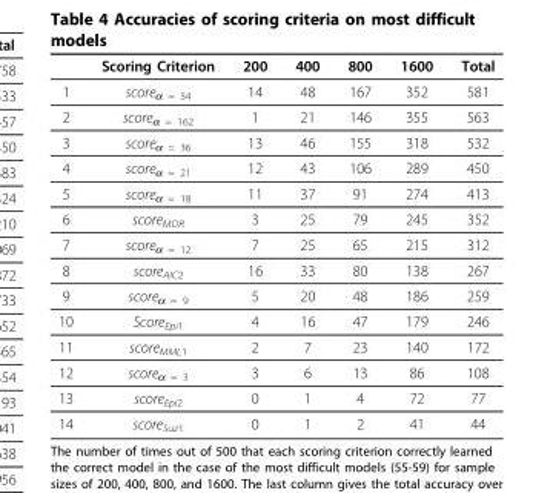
<table><thead><tr><td></td><td>Scoring Criterion</td><td>200</td><td>400</td><td>800</td><td>1600</td><td>Total</td></tr></thead><tbody><tr><td>1</td><td>score<sub>α = 54</sub></td><td>14</td><td>48</td><td>167</td><td>352</td><td>581</td></tr><tr><td>2</td><td>score<sub>α = 162</sub></td><td>1</td><td>21</td><td>146</td><td>355</td><td>563</td></tr><tr><td>3</td><td>score<sub>α = 36</sub></td><td>13</td><td>46</td><td>155</td><td>318</td><td>532</td></tr><tr><td>4</td><td>score<sub>α = 21</sub></td><td>12</td><td>43</td><td>106</td><td>289</td><td>450</td></tr><tr><td>5</td><td>score<sub>α = 18</sub></td><td>11</td><td>37</td><td>91</td><td>274</td><td>413</td></tr><tr><td>6</td><td>score<sub>MDR</sub></td><td>3</td><td>25</td><td>79</td><td>245</td><td>352</td></tr><tr><td>7</td><td>score<sub>α = 12</sub></td><td>7</td><td>25</td><td>65</td><td>215</td><td>312</td></tr><tr><td>8</td><td>score<sub>AIC2</sub></td><td>16</td><td>33</td><td>80</td><td>138</td><td>267</td></tr><tr><td>9</td><td>score<sub>α = 9</sub></td><td>5</td><td>20</td><td>48</td><td>186</td><td>259</td></tr><tr><td>10</td><td>Score<sub>Epi1</sub></td><td>4</td><td>16</td><td>47</td><td>179</td><td>246</td></tr><tr><td>11</td><td>score<sub>MML1</sub></td><td>2</td><td>7</td><td>23</td><td>140</td><td>172</td></tr><tr><td>12</td><td>score<sub>α = 3</sub></td><td>3</td><td>6</td><td>13</td><td>86</td><td>108</td></tr><tr><td>13</td><td>score<sub>Epi2</sub></td><td>0</td><td>1</td><td>4</td><td>72</td><td>77</td></tr><tr><td>14</td><td>score<sub>Suz1</sub></td><td>0</td><td>1</td><td>2</td><td>41</td><td>44</td></tr></tbody></table>